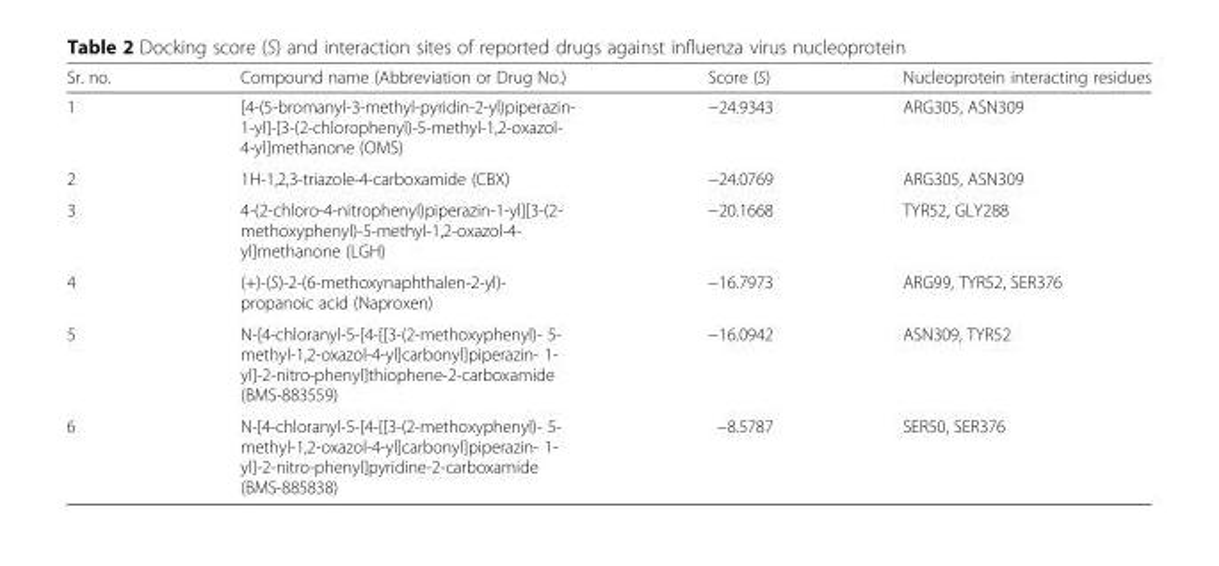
<table><thead><tr><td>Sr. no.</td><td>Compound name (Abbreviation or Drug No.)</td><td>Score (S)</td><td>Nucleoprotein interacting residues</td></tr></thead><tbody><tr><td>1</td><td>[4-(5-bromanyl-3-methyl-pyridin-2-yl)piperazin- 1-yl]-[3-(2-chlorophenyl)-5-methyl-1,2-oxazol- 4-yl]methanone (OMS)</td><td>−24.9343</td><td>ARG305, ASN309</td></tr><tr><td>2</td><td>1H-1,2,3-triazole-4-carboxamide (CBX)</td><td>−24.0769</td><td>ARG305, ASN309</td></tr><tr><td>3</td><td>4-(2-chloro-4-nitrophenyl)piperazin-1-yl][3-(2- methoxyphenyl)-5-methyl-1,2-oxazol-4- yl]methanone (LGH)</td><td>−20.1668</td><td>TYR52, GLY288</td></tr><tr><td>4</td><td>(+)-(S)-2-(6-methoxynaphthalen-2-yl)- propanoic acid (Naproxen)</td><td>−16.7973</td><td>ARG99, TYR52, SER376</td></tr><tr><td>5</td><td>N-[4-chloranyl-5-[4-[[3-(2-methoxyphenyl)- 5- methyl-1,2-oxazol-4-yl]carbonyl]piperazin- 1- yl]-2-nitro-phenyl]thiophene-2-carboxamide (BMS-883559)</td><td>−16.0942</td><td>ASN309, TYR52</td></tr><tr><td>6</td><td>N-[4-chloranyl-5-[4-[[3-(2-methoxyphenyl)- 5- methyl-1,2-oxazol-4-yl]carbonyl]piperazin- 1- yl]-2-nitro-phenyl]pyridine-2-carboxamide (BMS-885838)</td><td>−8.5787</td><td>SER50, SER376</td></tr></tbody></table>